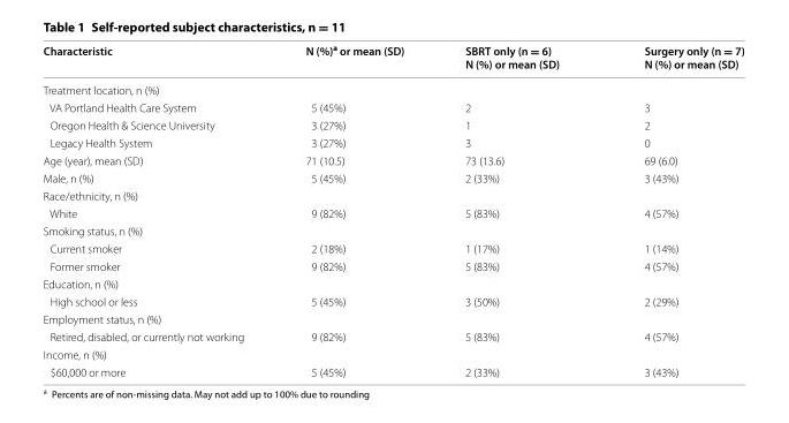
<table><thead><tr><td>Characteristic</td><td>N (%)<sup>a</sup> or mean (SD)</td><td>SBRT only (n = 6) N (%) or mean (SD)</td><td>Surgery only (n = 7) N (%) or mean (SD)</td></tr></thead><tbody><tr><td colspan="4">Treatment location, n (%)</td></tr><tr><td>VA Portland Health Care System</td><td>5 (45%)</td><td>2</td><td>3</td></tr><tr><td>Oregon Health &amp; Science University</td><td>3 (27%)</td><td>1</td><td>2</td></tr><tr><td>Legacy Health System</td><td>3 (27%)</td><td>3</td><td>0</td></tr><tr><td>Age (year), mean (SD)</td><td>71 (10.5)</td><td>73 (13.6)</td><td>69 (6.0)</td></tr><tr><td>Male, n (%)</td><td>5 (45%)</td><td>2 (33%)</td><td>3 (43%)</td></tr><tr><td colspan="4">Race/ethnicity, n (%)</td></tr><tr><td>White</td><td>9 (82%)</td><td>5 (83%)</td><td>4 (57%)</td></tr><tr><td colspan="4">Smoking status, n (%)</td></tr><tr><td>Current smoker</td><td>2 (18%)</td><td>1 (17%)</td><td>1 (14%)</td></tr><tr><td>Former smoker</td><td>9 (82%)</td><td>5 (83%)</td><td>4 (57%)</td></tr><tr><td colspan="4">Education, n (%)</td></tr><tr><td>High school or less</td><td>5 (45%)</td><td>3 (50%)</td><td>2 (29%)</td></tr><tr><td colspan="4">Employment status, n (%)</td></tr><tr><td>Retired, disabled, or currently not working</td><td>9 (82%)</td><td>5 (83%)</td><td>4 (57%)</td></tr><tr><td colspan="4">Income, n (%)</td></tr><tr><td>$60,000 or more</td><td>5 (45%)</td><td>2 (33%)</td><td>3 (43%)</td></tr></tbody></table>